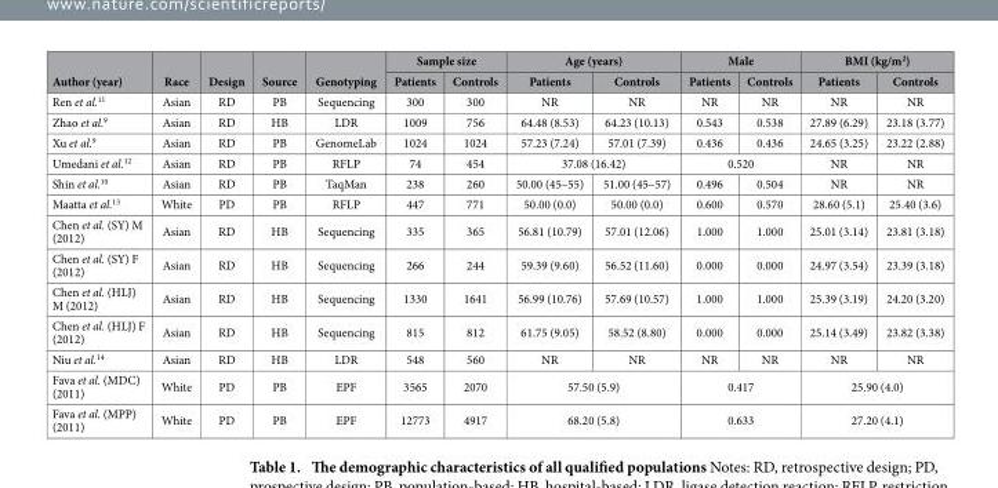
<table><thead><tr><td rowspan="2">Author (year)</td><td rowspan="2">Race</td><td rowspan="2">Design</td><td rowspan="2">Source</td><td rowspan="2">Genotyping</td><td colspan="2">Sample size</td><td colspan="2">Age (years)</td><td colspan="2">Male</td><td colspan="2">BMI (kg/m<sup>2</sup>)</td></tr><tr><td>Patients</td><td>Controls</td><td>Patients</td><td>Controls</td><td>Patients</td><td>Controls</td><td>Patients</td><td>Controls</td></tr></thead><tbody><tr><td>Ren et al.<sup>11</sup></td><td>Asian</td><td>RD</td><td>PB</td><td>Sequencing</td><td>300</td><td>300</td><td>NR</td><td>NR</td><td>NR</td><td>NR</td><td>NR</td><td>NR</td></tr><tr><td>Zhao et al.<sup>9</sup></td><td>Asian</td><td>RD</td><td>HB</td><td>LDR</td><td>1009</td><td>756</td><td>64.48 (8.53)</td><td>64.23 (10.13)</td><td>0.543</td><td>0.538</td><td>27.89 (6.29)</td><td>23.18 (3.77)</td></tr><tr><td>Xu et al.<sup>9</sup></td><td>Asian</td><td>RD</td><td>PB</td><td>GenomeLab</td><td>1024</td><td>1024</td><td>57.23 (7.24)</td><td>57.01 (7.39)</td><td>0.436</td><td>0.436</td><td>24.65 (3.25)</td><td>23.22 (2.88)</td></tr><tr><td>Umedani et al.<sup>12</sup></td><td>Asian</td><td>RD</td><td>PB</td><td>RFLP</td><td>74</td><td>454</td><td colspan="2">37.08 (16.42)</td><td colspan="2">0.520</td><td>NR</td><td>NR</td></tr><tr><td>Shin et al.<sup>10</sup></td><td>Asian</td><td>RD</td><td>PB</td><td>TaqMan</td><td>238</td><td>260</td><td>50.00 (45–55)</td><td>51.00 (45–57)</td><td>0.496</td><td>0.504</td><td>NR</td><td>NR</td></tr><tr><td>Maatta et al.<sup>13</sup></td><td>White</td><td>PD</td><td>PB</td><td>RFLP</td><td>447</td><td>771</td><td>50.00 (0.0)</td><td>50.00 (0.0)</td><td>0.600</td><td>0.570</td><td>28.60 (5.1)</td><td>25.40 (3.6)</td></tr><tr><td>Chen et al. (SY) M (2012)</td><td>Asian</td><td>RD</td><td>HB</td><td>Sequencing</td><td>335</td><td>365</td><td>56.81 (10.79)</td><td>57.01 (12.06)</td><td>1.000</td><td>1.000</td><td>25.01 (3.14)</td><td>23.81 (3.18)</td></tr><tr><td>Chen et al. (SY) F (2012)</td><td>Asian</td><td>RD</td><td>HB</td><td>Sequencing</td><td>266</td><td>244</td><td>59.39 (9.60)</td><td>56.52 (11.60)</td><td>0.000</td><td>0.000</td><td>24.97 (3.54)</td><td>23.39 (3.18)</td></tr><tr><td>Chen et al. (HLJ) M (2012)</td><td>Asian</td><td>RD</td><td>HB</td><td>Sequencing</td><td>1330</td><td>1641</td><td>56.99 (10.76)</td><td>57.69 (10.57)</td><td>1.000</td><td>1.000</td><td>25.39 (3.19)</td><td>24.20 (3.20)</td></tr><tr><td>Chen et al. (HLJ) F (2012)</td><td>Asian</td><td>RD</td><td>HB</td><td>Sequencing</td><td>815</td><td>812</td><td>61.75 (9.05)</td><td>58.52 (8.80)</td><td>0.000</td><td>0.000</td><td>25.14 (3.49)</td><td>23.82 (3.38)</td></tr><tr><td>Niu et al.<sup>14</sup></td><td>Asian</td><td>RD</td><td>HB</td><td>LDR</td><td>548</td><td>560</td><td>NR</td><td>NR</td><td>NR</td><td>NR</td><td>NR</td><td>NR</td></tr><tr><td>Fava et al. (MDC) (2011)</td><td>White</td><td>PD</td><td>PB</td><td>EPF</td><td>3565</td><td>2070</td><td colspan="2">57.50 (5.9)</td><td colspan="2">0.417</td><td colspan="2">25.90 (4.0)</td></tr><tr><td>Fava et al. (MPP) (2011)</td><td>White</td><td>PD</td><td>PB</td><td>EPF</td><td>12773</td><td>4917</td><td colspan="2">68.20 (5.8)</td><td colspan="2">0.633</td><td colspan="2">27.20 (4.1)</td></tr></tbody></table>